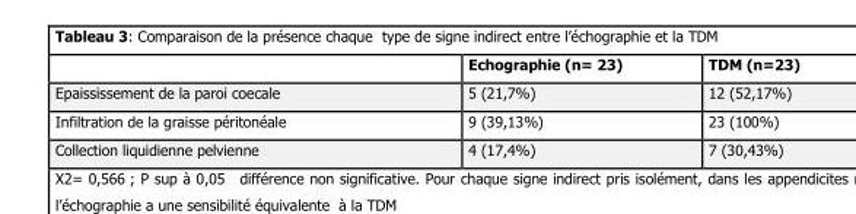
<table><thead><tr><td></td><td>Echographie (n= 23)</td><td>TDM (n=23)</td></tr></thead><tbody><tr><td>Epaississement de la paroi coecale</td><td>5 (21,7%)</td><td>12 (52,17%)</td></tr><tr><td>Infiltration de la graisse péritonéale</td><td>9 (39,13%)</td><td>23 (100%)</td></tr><tr><td>Collection liquidienne pelvienne</td><td>4 (17,4%)</td><td>7 (30,43%)</td></tr></tbody></table>